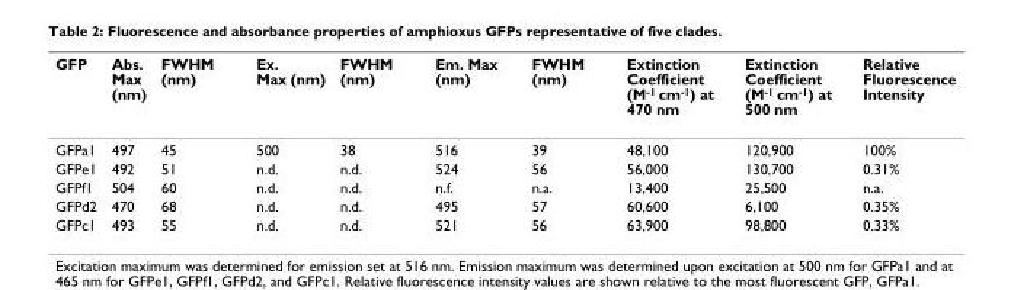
<table><thead><tr><td>GFP</td><td>Abs. Max (nm)</td><td>FWHM (nm)</td><td>Ex. Max (nm)</td><td>FWHM (nm)</td><td>Em. Max (nm)</td><td>FWHM (nm)</td><td>Extinction Coefficient (M<sup>-1</sup> cm<sup>-1</sup>) at 470 nm</td><td>Extinction Coefficient (M<sup>-1</sup> cm<sup>-1</sup>) at 500 nm</td><td>Relative Fluorescence Intensity</td></tr></thead><tbody><tr><td>GFPa1</td><td>497</td><td>45</td><td>500</td><td>38</td><td>516</td><td>39</td><td>48,100</td><td>120,900</td><td>100%</td></tr><tr><td>GFPe1</td><td>492</td><td>51</td><td>n.d.</td><td>n.d.</td><td>524</td><td>56</td><td>56,000</td><td>130,700</td><td>0.31%</td></tr><tr><td>GFPf1</td><td>504</td><td>60</td><td>n.d.</td><td>n.d.</td><td>n.f.</td><td>n.a.</td><td>13,400</td><td>25,500</td><td>n.a.</td></tr><tr><td>GFPd2</td><td>470</td><td>68</td><td>n.d.</td><td>n.d.</td><td>495</td><td>57</td><td>60,600</td><td>6,100</td><td>0.35%</td></tr><tr><td>GFPc1</td><td>493</td><td>55</td><td>n.d.</td><td>n.d.</td><td>521</td><td>56</td><td>63,900</td><td>98,800</td><td>0.33%</td></tr></tbody></table>